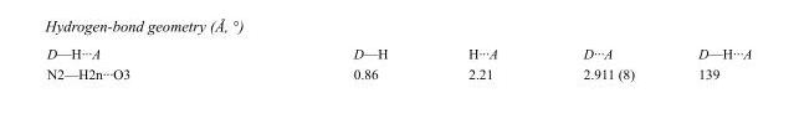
<table><tbody><tr><td>D—H···A</td><td>D—H</td><td>H···A</td><td>D···A</td><td>D—H···A</td></tr><tr><td>N2—H2n···O3</td><td>0.86</td><td>2.21</td><td>2.911 (8)</td><td>139</td></tr></tbody></table>